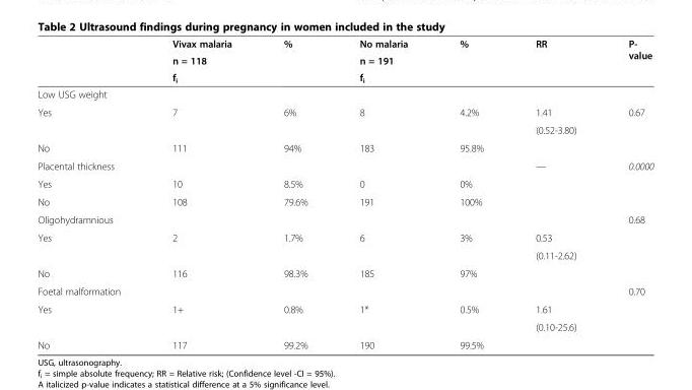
<table><thead><tr><td rowspan="3"></td><td rowspan="3">Vivax malaria n = 118 f<sub>i</sub></td><td rowspan="3">%</td><td rowspan="3">No malaria n = 191 f<sub>i</sub></td><td rowspan="3">%</td><td rowspan="3">RR</td><td rowspan="3">P- value</td></tr><tr></tr><tr></tr></thead><tbody><tr><td colspan="7">Low USG weight</td></tr><tr><td rowspan="2">Yes</td><td rowspan="2">7</td><td rowspan="2">6%</td><td rowspan="2">8</td><td rowspan="2">4.2%</td><td>1.41</td><td rowspan="2">0.67</td></tr><tr><td>(0.52-3.80)</td></tr><tr><td>No</td><td>111</td><td>94%</td><td>183</td><td>95.8%</td><td></td><td></td></tr><tr><td>Placental thickness</td><td></td><td></td><td></td><td></td><td>—</td><td>0.0000</td></tr><tr><td>Yes</td><td>10</td><td>8.5%</td><td>0</td><td>0%</td><td></td><td></td></tr><tr><td>No</td><td>108</td><td>79.6%</td><td>191</td><td>100%</td><td></td><td></td></tr><tr><td>Oligohydramnious</td><td></td><td></td><td></td><td></td><td></td><td>0.68</td></tr><tr><td rowspan="2">Yes</td><td rowspan="2">2</td><td rowspan="2">1.7%</td><td rowspan="2">6</td><td rowspan="2">3%</td><td>0.53</td><td rowspan="2"></td></tr><tr><td>(0.11-2.62)</td></tr><tr><td>No</td><td>116</td><td>98.3%</td><td>185</td><td>97%</td><td></td><td></td></tr><tr><td>Foetal malformation</td><td></td><td></td><td></td><td></td><td></td><td>0.70</td></tr><tr><td rowspan="2">Yes</td><td rowspan="2">1+</td><td rowspan="2">0.8%</td><td rowspan="2">1*</td><td rowspan="2">0.5%</td><td>1.61</td><td rowspan="2"></td></tr><tr><td>(0.10-25.6)</td></tr><tr><td>No</td><td>117</td><td>99.2%</td><td>190</td><td>99.5%</td><td></td><td></td></tr></tbody></table>